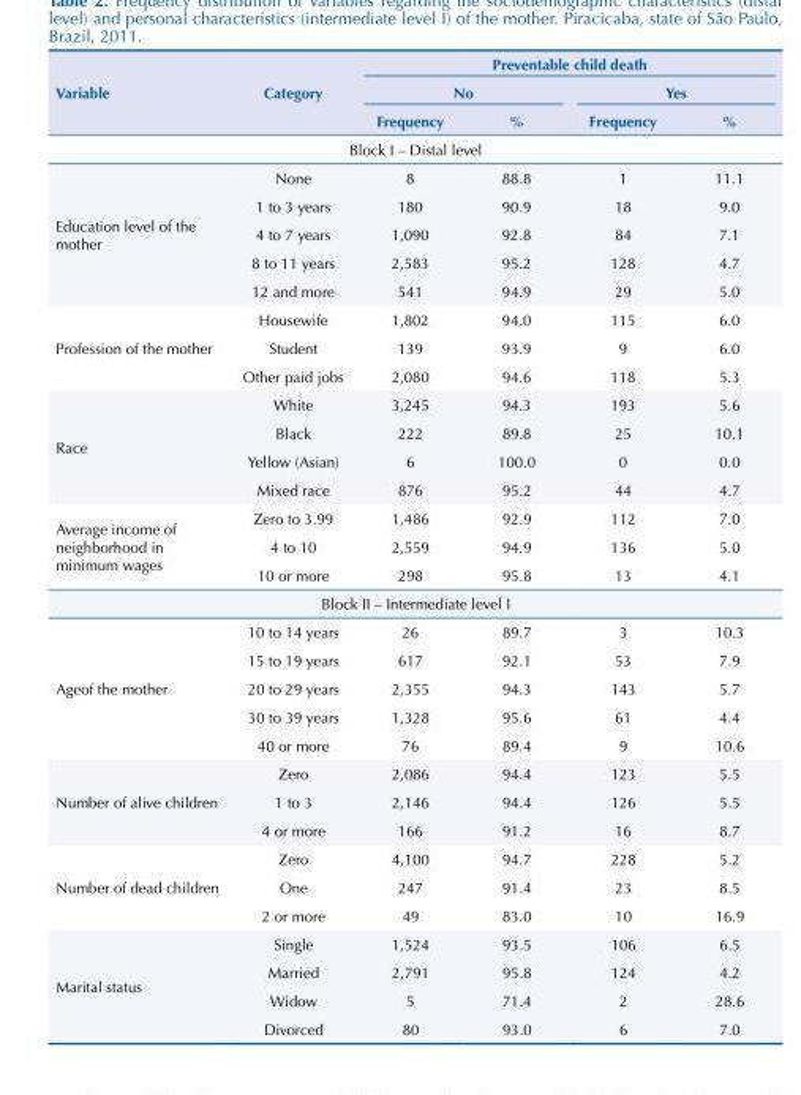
<table><thead><tr><td rowspan="3">Variable</td><td rowspan="3">Category</td><td colspan="4">Preventable child death</td></tr><tr><td colspan="2">No</td><td colspan="2">Yes</td></tr><tr><td>Frequency</td><td>%</td><td>Frequency</td><td>%</td></tr></thead><tbody><tr><td colspan="6">Block I – Distal level</td></tr><tr><td rowspan="5">Education level of the mother</td><td>None</td><td>8</td><td>88.8</td><td>1</td><td>11.1</td></tr><tr><td>1 to 3 years</td><td>180</td><td>90.9</td><td>18</td><td>9.0</td></tr><tr><td>4 to 7 years</td><td>1,090</td><td>92.8</td><td>84</td><td>7.1</td></tr><tr><td>8 to 11 years</td><td>2,583</td><td>95.2</td><td>128</td><td>4.7</td></tr><tr><td>12 and more</td><td>541</td><td>94.9</td><td>29</td><td>5.0</td></tr><tr><td rowspan="3">Profession of the mother</td><td>Housewife</td><td>1,802</td><td>94.0</td><td>115</td><td>6.0</td></tr><tr><td>Student</td><td>139</td><td>93.9</td><td>9</td><td>6.0</td></tr><tr><td>Other paid jobs</td><td>2,080</td><td>94.6</td><td>118</td><td>5.3</td></tr><tr><td rowspan="4">Race</td><td>White</td><td>3,245</td><td>94.3</td><td>193</td><td>5.6</td></tr><tr><td>Black</td><td>222</td><td>89.8</td><td>25</td><td>10.1</td></tr><tr><td>Yellow (Asian)</td><td>6</td><td>100.0</td><td>0</td><td>0.0</td></tr><tr><td>Mixed race</td><td>876</td><td>95.2</td><td>44</td><td>4.7</td></tr><tr><td rowspan="3">Average income of neighborhood in minimum wages</td><td>Zero to 3.99</td><td>1,486</td><td>92.9</td><td>112</td><td>7.0</td></tr><tr><td>4 to 10</td><td>2,559</td><td>94.9</td><td>136</td><td>5.0</td></tr><tr><td>10 or more</td><td>298</td><td>95.8</td><td>13</td><td>4.1</td></tr><tr><td colspan="6">Block II – Intermediate level I</td></tr><tr><td rowspan="5">Ageof the mother</td><td>10 to 14 years</td><td>26</td><td>89.7</td><td>3</td><td>10.3</td></tr><tr><td>15 to 19 years</td><td>617</td><td>92.1</td><td>53</td><td>7.9</td></tr><tr><td>20 to 29 years</td><td>2,355</td><td>94.3</td><td>143</td><td>5.7</td></tr><tr><td>30 to 39 years</td><td>1,328</td><td>95.6</td><td>61</td><td>4.4</td></tr><tr><td>40 or more</td><td>76</td><td>89.4</td><td>9</td><td>10.6</td></tr><tr><td rowspan="3">Number of alive children</td><td>Zero</td><td>2,086</td><td>94.4</td><td>123</td><td>5.5</td></tr><tr><td>1 to 3</td><td>2,146</td><td>94.4</td><td>126</td><td>5.5</td></tr><tr><td>4 or more</td><td>166</td><td>91.2</td><td>16</td><td>8.7</td></tr><tr><td rowspan="3">Number of dead children</td><td>Zero</td><td>4,100</td><td>94.7</td><td>228</td><td>5.2</td></tr><tr><td>One</td><td>247</td><td>91.4</td><td>23</td><td>8.5</td></tr><tr><td>2 or more</td><td>49</td><td>83.0</td><td>10</td><td>16.9</td></tr><tr><td rowspan="4">Marital status</td><td>Single</td><td>1,524</td><td>93.5</td><td>106</td><td>6.5</td></tr><tr><td>Married</td><td>2,791</td><td>95.8</td><td>124</td><td>4.2</td></tr><tr><td>Widow</td><td>5</td><td>71.4</td><td>2</td><td>28.6</td></tr><tr><td>Divorced</td><td>80</td><td>93.0</td><td>6</td><td>7.0</td></tr></tbody></table>